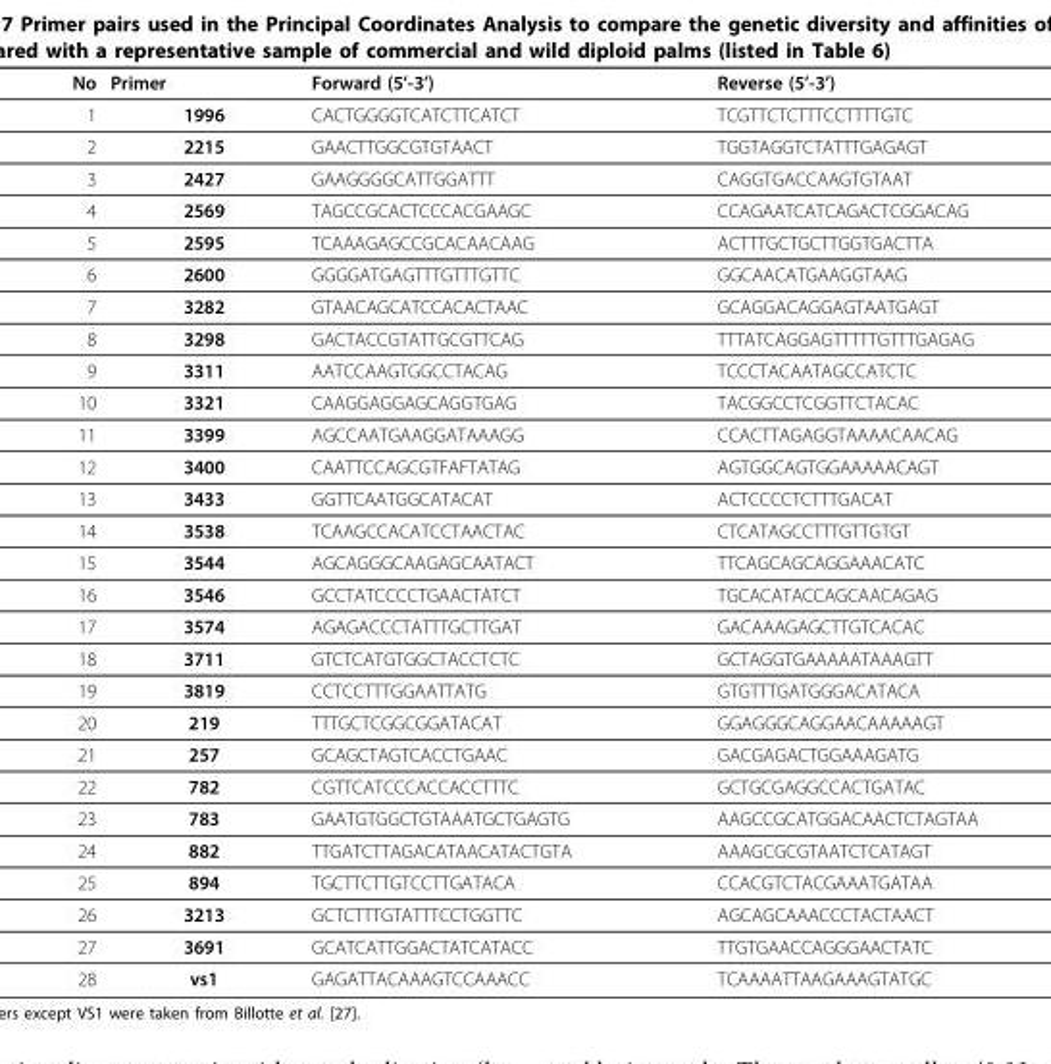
<table><thead><tr><td>No</td><td>Primer</td><td>Forward (5’-3’)</td><td>Reverse (5’-3’)</td></tr></thead><tbody><tr><td>1</td><td>1996</td><td>CACTGGGGTCATCTTCATCT</td><td>TCGTTCTCTTTCCTTTTGTC</td></tr><tr><td>2</td><td>2215</td><td>GAACTTGGCGTGTAACT</td><td>TGGTAGGTCTATTTGAGAGT</td></tr><tr><td>3</td><td>2427</td><td>GAAGGGGCATTGGATTT</td><td>CAGGTGACCAAGTGTAAT</td></tr><tr><td>4</td><td>2569</td><td>TAGCCGCACTCCCACGAAGC</td><td>CCAGAATCATCAGACTCGGACAG</td></tr><tr><td>5</td><td>2595</td><td>TCAAAGAGCCGCACAACAAG</td><td>ACTTTGCTGCTTGGTGACTTA</td></tr><tr><td>6</td><td>2600</td><td>GGGGATGAGTTTGTTTGTTC</td><td>GGCAACATGAAGGTAAG</td></tr><tr><td>7</td><td>3282</td><td>GTAACAGCATCCACACTAAC</td><td>GCAGGACAGGAGTAATGAGT</td></tr><tr><td>8</td><td>3298</td><td>GACTACCGTATTGCGTTCAG</td><td>TTTATCAGGAGTTTTTGTTTGAGAG</td></tr><tr><td>9</td><td>3311</td><td>AATCCAAGTGGCCTACAG</td><td>TCCCTACAATAGCCATCTC</td></tr><tr><td>10</td><td>3321</td><td>CAAGGAGGAGCAGGTGAG</td><td>TACGGCCTCGGTTCTACAC</td></tr><tr><td>11</td><td>3399</td><td>AGCCAATGAAGGATAAAGG</td><td>CCACTTAGAGGTAAAACAACAG</td></tr><tr><td>12</td><td>3400</td><td>CAATTCCAGCGTFAFTATAG</td><td>AGTGGCAGTGGAAAAACAGT</td></tr><tr><td>13</td><td>3433</td><td>GGTTCAATGGCATACAT</td><td>ACTCCCCTCTTTGACAT</td></tr><tr><td>14</td><td>3538</td><td>TCAAGCCACATCCTAACTAC</td><td>CTCATAGCCTTTGTTGTGT</td></tr><tr><td>15</td><td>3544</td><td>AGCAGGGCAAGAGCAATACT</td><td>TTCAGCAGCAGGAAACATC</td></tr><tr><td>16</td><td>3546</td><td>GCCTATCCCCTGAACTATCT</td><td>TGCACATACCAGCAACAGAG</td></tr><tr><td>17</td><td>3574</td><td>AGAGACCCTATTTGCTTGAT</td><td>GACAAAGAGCTTGTCACAC</td></tr><tr><td>18</td><td>3711</td><td>GTCTCATGTGGCTACCTCTC</td><td>GCTAGGTGAAAAATAAAGTT</td></tr><tr><td>19</td><td>3819</td><td>CCTCCTTTGGAATTATG</td><td>GTGTTTGATGGGACATACA</td></tr><tr><td>20</td><td>219</td><td>TTTGCTCGGCGGATACAT</td><td>GGAGGGCAGGAACAAAAAGT</td></tr><tr><td>21</td><td>257</td><td>GCAGCTAGTCACCTGAAC</td><td>GACGAGACTGGAAAGATG</td></tr><tr><td>22</td><td>782</td><td>CGTTCATCCCACCACCTTTC</td><td>GCTGCGAGGCCACTGATAC</td></tr><tr><td>23</td><td>783</td><td>GAATGTGGCTGTAAATGCTGAGTG</td><td>AAGCCGCATGGACAACTCTAGTAA</td></tr><tr><td>24</td><td>882</td><td>TTGATCTTAGACATAACATACTGTA</td><td>AAAGCGCGTAATCTCATAGT</td></tr><tr><td>25</td><td>894</td><td>TGCTTCTTGTCCTTGATACA</td><td>CCACGTCTACGAAATGATAA</td></tr><tr><td>26</td><td>3213</td><td>GCTCTTTGTATTTCCTGGTTC</td><td>AGCAGCAAACCCTACTAACT</td></tr><tr><td>27</td><td>3691</td><td>GCATCATTGGACTATCATACC</td><td>TTGTGAACCAGGGAACTATC</td></tr><tr><td>28</td><td>vs1</td><td>GAGATTACAAAGTCCAAACC</td><td>TCAAAATTAAGAAAGTATGC</td></tr></tbody></table>